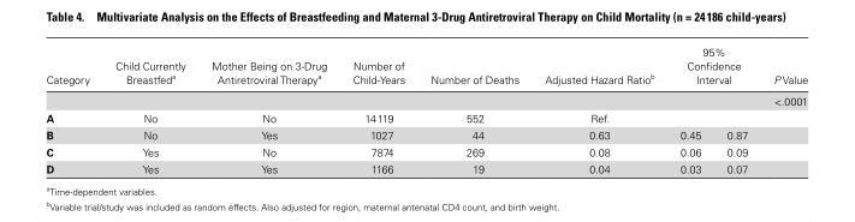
<table><thead><tr><td rowspan="2">Category</td><td rowspan="2">Child Currently Breastfed<sup>a</sup></td><td rowspan="2">Mother Being on 3-Drug Antiretroviral Therapy<sup>a</sup></td><td rowspan="2">Number of Child-Years</td><td rowspan="2">Number of Deaths</td><td rowspan="2">Adjusted Hazard Ratio<sup>b</sup></td><td colspan="2">95% Confidence Interval</td><td rowspan="2">P Value &lt;.0001</td></tr><tr><td></td><td></td></tr></thead><tbody><tr><td>A</td><td>No</td><td>No</td><td>14 119</td><td>552</td><td>Ref.</td><td></td><td></td><td></td></tr><tr><td>B</td><td>No</td><td>Yes</td><td>1027</td><td>44</td><td>0.63</td><td>0.45</td><td>0.87</td><td></td></tr><tr><td>C</td><td>Yes</td><td>No</td><td>7874</td><td>269</td><td>0.08</td><td>0.06</td><td>0.09</td><td></td></tr><tr><td>D</td><td>Yes</td><td>Yes</td><td>1166</td><td>19</td><td>0.04</td><td>0.03</td><td>0.07</td><td></td></tr></tbody></table>